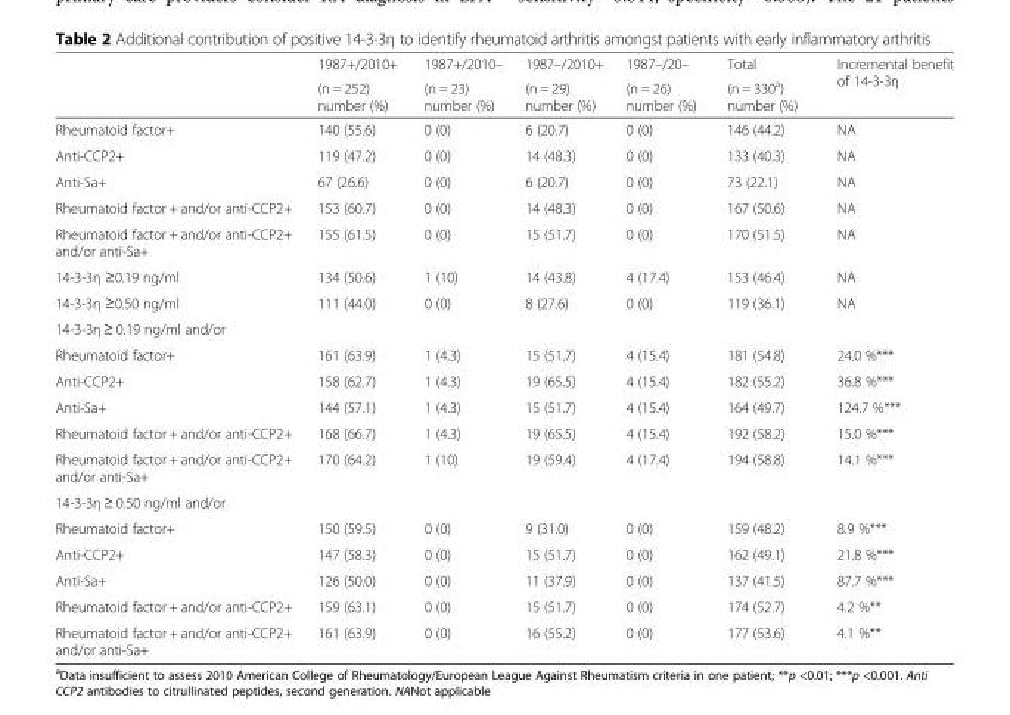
<table><thead><tr><td rowspan="2"></td><td rowspan="2">1987+/2010+ (n = 252) number (%)</td><td rowspan="2">1987+/2010– (n = 23) number (%)</td><td rowspan="2">1987–/2010+ (n = 29) number (%)</td><td rowspan="2">1987–/20– (n = 26) number (%)</td><td rowspan="2">Total (n = 330<sup>a</sup>) number (%)</td><td rowspan="2">Incremental benefit of 14-3-3η</td></tr><tr></tr></thead><tbody><tr><td>Rheumatoid factor+</td><td>140 (55.6)</td><td>0 (0)</td><td>6 (20.7)</td><td>0 (0)</td><td>146 (44.2)</td><td>NA</td></tr><tr><td>Anti-CCP2+</td><td>119 (47.2)</td><td>0 (0)</td><td>14 (48.3)</td><td>0 (0)</td><td>133 (40.3)</td><td>NA</td></tr><tr><td>Anti-Sa+</td><td>67 (26.6)</td><td>0 (0)</td><td>6 (20.7)</td><td>0 (0)</td><td>73 (22.1)</td><td>NA</td></tr><tr><td>Rheumatoid factor + and/or anti-CCP2+</td><td>153 (60.7)</td><td>0 (0)</td><td>14 (48.3)</td><td>0 (0)</td><td>167 (50.6)</td><td>NA</td></tr><tr><td>Rheumatoid factor + and/or anti-CCP2+ and/or anti-Sa+</td><td>155 (61.5)</td><td>0 (0)</td><td>15 (51.7)</td><td>0 (0)</td><td>170 (51.5)</td><td>NA</td></tr><tr><td>14-3-3η ≥0.19 ng/ml</td><td>134 (50.6)</td><td>1 (10)</td><td>14 (43.8)</td><td>4 (17.4)</td><td>153 (46.4)</td><td>NA</td></tr><tr><td>14-3-3η ≥0.50 ng/ml</td><td>111 (44.0)</td><td>0 (0)</td><td>8 (27.6)</td><td>0 (0)</td><td>119 (36.1)</td><td>NA</td></tr><tr><td colspan="7">14-3-3η ≥ 0.19 ng/ml and/or</td></tr><tr><td>Rheumatoid factor+</td><td>161 (63.9)</td><td>1 (4.3)</td><td>15 (51.7)</td><td>4 (15.4)</td><td>181 (54.8)</td><td>24.0 %***</td></tr><tr><td>Anti-CCP2+</td><td>158 (62.7)</td><td>1 (4.3)</td><td>19 (65.5)</td><td>4 (15.4)</td><td>182 (55.2)</td><td>36.8 %***</td></tr><tr><td>Anti-Sa+</td><td>144 (57.1)</td><td>1 (4.3)</td><td>15 (51.7)</td><td>4 (15.4)</td><td>164 (49.7)</td><td>124.7 %***</td></tr><tr><td>Rheumatoid factor + and/or anti-CCP2+</td><td>168 (66.7)</td><td>1 (4.3)</td><td>19 (65.5)</td><td>4 (15.4)</td><td>192 (58.2)</td><td>15.0 %***</td></tr><tr><td>Rheumatoid factor + and/or anti-CCP2+ and/or anti-Sa+</td><td>170 (64.2)</td><td>1 (10)</td><td>19 (59.4)</td><td>4 (17.4)</td><td>194 (58.8)</td><td>14.1 %***</td></tr><tr><td colspan="7">14-3-3η ≥ 0.50 ng/ml and/or</td></tr><tr><td>Rheumatoid factor+</td><td>150 (59.5)</td><td>0 (0)</td><td>9 (31.0)</td><td>0 (0)</td><td>159 (48.2)</td><td>8.9 %***</td></tr><tr><td>Anti-CCP2+</td><td>147 (58.3)</td><td>0 (0)</td><td>15 (51.7)</td><td>0 (0)</td><td>162 (49.1)</td><td>21.8 %***</td></tr><tr><td>Anti-Sa+</td><td>126 (50.0)</td><td>0 (0)</td><td>11 (37.9)</td><td>0 (0)</td><td>137 (41.5)</td><td>87.7 %***</td></tr><tr><td>Rheumatoid factor + and/or anti-CCP2+</td><td>159 (63.1)</td><td>0 (0)</td><td>15 (51.7)</td><td>0 (0)</td><td>174 (52.7)</td><td>4.2 %**</td></tr><tr><td>Rheumatoid factor + and/or anti-CCP2+ and/or anti-Sa+</td><td>161 (63.9)</td><td>0 (0)</td><td>16 (55.2)</td><td>0 (0)</td><td>177 (53.6)</td><td>4.1 %**</td></tr></tbody></table>